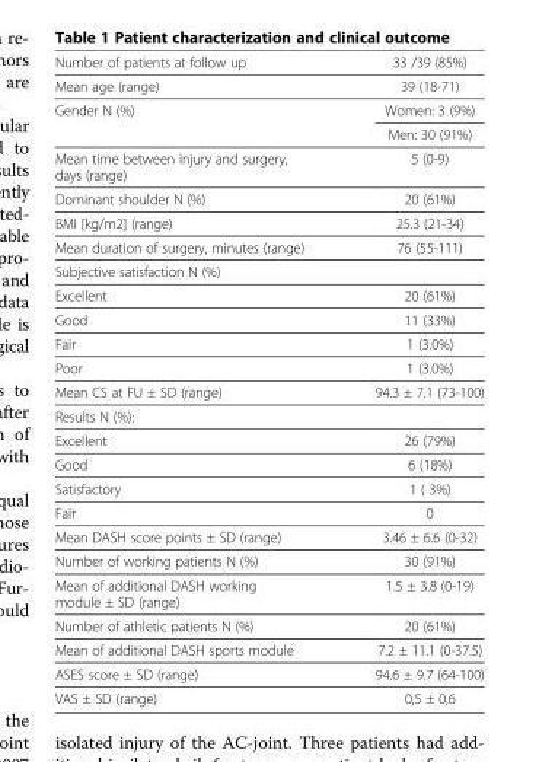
<table><tbody><tr><td>Number of patients at follow up</td><td>33 /39 (85%)</td></tr><tr><td>Mean age (range)</td><td>39 (18-71)</td></tr><tr><td rowspan="2">Gender N (%)</td><td>Women: 3 (9%)</td></tr><tr><td>Men: 30 (91%)</td></tr><tr><td>Mean time between injury and surgery, days (range)</td><td>5 (0-9)</td></tr><tr><td>Dominant shoulder N (%)</td><td>20 (61%)</td></tr><tr><td>BMI [kg/m2] (range)</td><td>25.3 (21-34)</td></tr><tr><td>Mean duration of surgery, minutes (range)</td><td>76 (55-111)</td></tr><tr><td colspan="2">Subjective satisfaction N (%)</td></tr><tr><td>Excellent</td><td>20 (61%)</td></tr><tr><td>Good</td><td>11 (33%)</td></tr><tr><td>Fair</td><td>1 (3.0%)</td></tr><tr><td>Poor</td><td>1 (3.0%)</td></tr><tr><td>Mean CS at FU ± SD (range)</td><td>94.3 ± 7.1 (73-100)</td></tr><tr><td colspan="2">Results N (%):</td></tr><tr><td>Excellent</td><td>26 (79%)</td></tr><tr><td>Good</td><td>6 (18%)</td></tr><tr><td>Satisfactory</td><td>1 ( 3%)</td></tr><tr><td>Fair</td><td>0</td></tr><tr><td>Mean DASH score points ± SD (range)</td><td>3.46 ± 6.6 (0-32)</td></tr><tr><td>Number of working patients N (%)</td><td>30 (91%)</td></tr><tr><td>Mean of additional DASH working module ± SD (range)</td><td>1.5 ± 3.8 (0-19)</td></tr><tr><td>Number of athletic patients N (%)</td><td>20 (61%)</td></tr><tr><td>Mean of additional DASH sports module</td><td>7.2 ± 11.1 (0-37.5)</td></tr><tr><td>ASES score ± SD (range)</td><td>94.6 ± 9.7 (64-100)</td></tr><tr><td>VAS ± SD (range)</td><td>0,5 ± 0,6</td></tr></tbody></table>